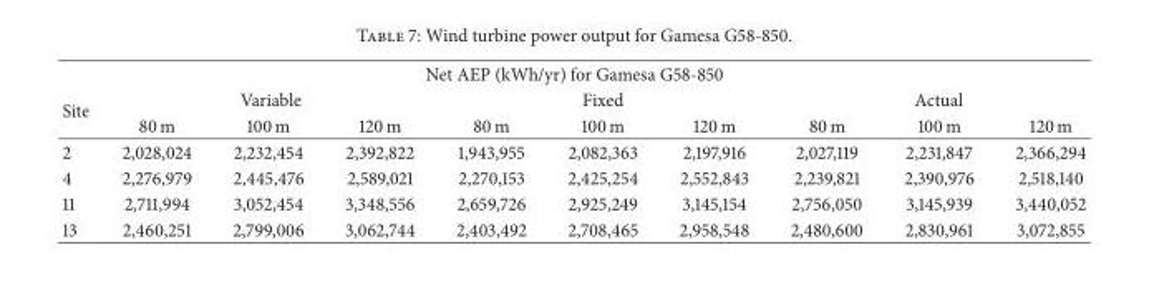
<table><thead><tr><td colspan="10">Net AEP (kWh/yr) for Gamesa G58-850</td></tr><tr><td rowspan="2">Site</td><td colspan="3">Variable</td><td colspan="3">Fixed</td><td colspan="3">Actual</td></tr><tr><td>80 m</td><td>100 m</td><td>120 m</td><td>80 m</td><td>100 m</td><td>120 m</td><td>80 m</td><td>100 m</td><td>120 m</td></tr></thead><tbody><tr><td>2</td><td>2,028,024</td><td>2,232,454</td><td>2,392,822</td><td>1,943,955</td><td>2,082,363</td><td>2,197,916</td><td>2,027,119</td><td>2,231,847</td><td>2,366,294</td></tr><tr><td>4</td><td>2,276,979</td><td>2,445,476</td><td>2,589,021</td><td>2,270,153</td><td>2,425,254</td><td>2,552,843</td><td>2,239,821</td><td>2,390,976</td><td>2,518,140</td></tr><tr><td>11</td><td>2,711,994</td><td>3,052,454</td><td>3,348,556</td><td>2,659,726</td><td>2,925,249</td><td>3,145,154</td><td>2,756,050</td><td>3,145,939</td><td>3,440,052</td></tr><tr><td>13</td><td>2,460,251</td><td>2,799,006</td><td>3,062,744</td><td>2,403,492</td><td>2,708,465</td><td>2,958,548</td><td>2,480,600</td><td>2,830,961</td><td>3,072,855</td></tr></tbody></table>